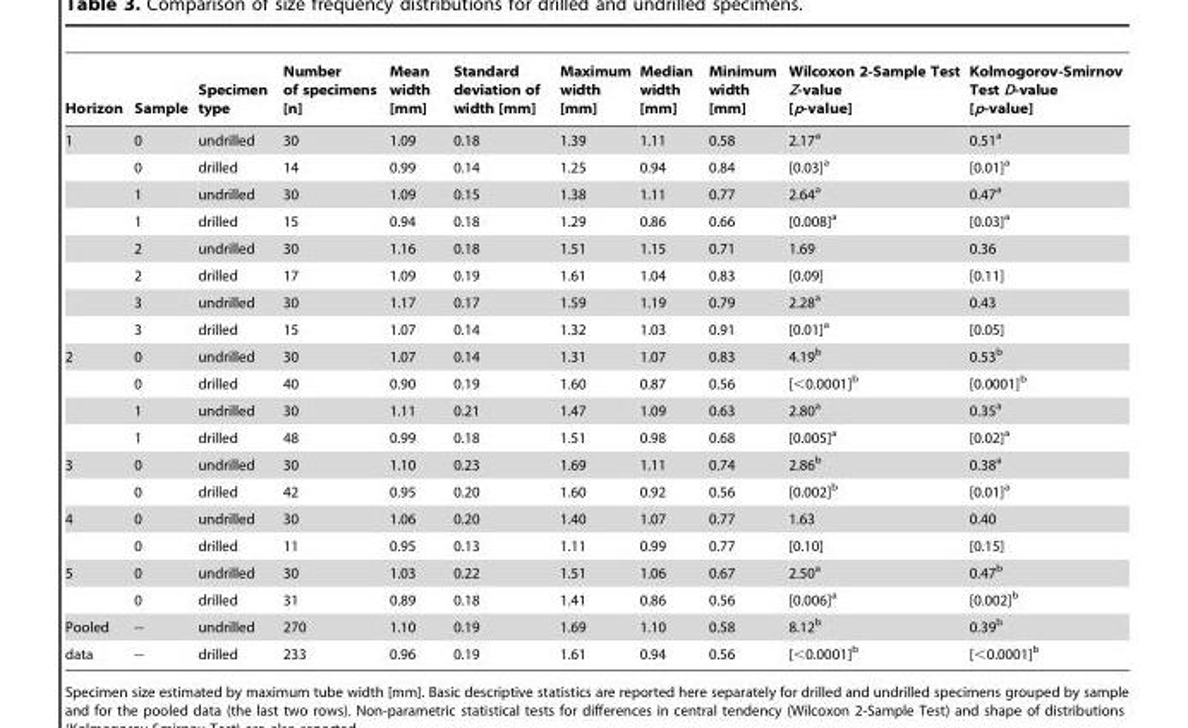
<table><thead><tr><td>Horizon</td><td>Sample</td><td>Specimen type</td><td>Number of specimens [n]</td><td>Mean width [mm]</td><td>Standard deviation of width [mm]</td><td>Maximum width [mm]</td><td>Median width [mm]</td><td>Minimum width [mm]</td><td>Wilcoxon 2-Sample Test Z-value [p-value]</td><td>Kolmogorov-Smirnov Test D-value [p-value]</td></tr></thead><tbody><tr><td rowspan="8">1</td><td>0</td><td>undrilled</td><td>30</td><td>1.09</td><td>0.18</td><td>1.39</td><td>1.11</td><td>0.58</td><td>2.17<sup>a</sup></td><td>0.51<sup>a</sup></td></tr><tr><td>0</td><td>drilled</td><td>14</td><td>0.99</td><td>0.14</td><td>1.25</td><td>0.94</td><td>0.84</td><td>[0.03]<sup>a</sup></td><td>[0.01]<sup>a</sup></td></tr><tr><td>1</td><td>undrilled</td><td>30</td><td>1.09</td><td>0.15</td><td>1.38</td><td>1.11</td><td>0.77</td><td>2.64<sup>a</sup></td><td>0.47<sup>a</sup></td></tr><tr><td>1</td><td>drilled</td><td>15</td><td>0.94</td><td>0.18</td><td>1.29</td><td>0.86</td><td>0.66</td><td>[0.008]<sup>a</sup></td><td>[0.03]<sup>a</sup></td></tr><tr><td>2</td><td>undrilled</td><td>30</td><td>1.16</td><td>0.18</td><td>1.51</td><td>1.15</td><td>0.71</td><td>1.69</td><td>0.36</td></tr><tr><td>2</td><td>drilled</td><td>17</td><td>1.09</td><td>0.19</td><td>1.61</td><td>1.04</td><td>0.83</td><td>[0.09]</td><td>[0.11]</td></tr><tr><td>3</td><td>undrilled</td><td>30</td><td>1.17</td><td>0.17</td><td>1.59</td><td>1.19</td><td>0.79</td><td>2.28<sup>a</sup></td><td>0.43</td></tr><tr><td>3</td><td>drilled</td><td>15</td><td>1.07</td><td>0.14</td><td>1.32</td><td>1.03</td><td>0.91</td><td>[0.01]<sup>a</sup></td><td>[0.05]</td></tr><tr><td rowspan="4">2</td><td>0</td><td>undrilled</td><td>30</td><td>1.07</td><td>0.14</td><td>1.31</td><td>1.07</td><td>0.83</td><td>4.19<sup>b</sup></td><td>0.53<sup>b</sup></td></tr><tr><td>0</td><td>drilled</td><td>40</td><td>0.90</td><td>0.19</td><td>1.60</td><td>0.87</td><td>0.56</td><td>[&lt;0.0001]<sup>b</sup></td><td>[0.0001]<sup>b</sup></td></tr><tr><td>1</td><td>undrilled</td><td>30</td><td>1.11</td><td>0.21</td><td>1.47</td><td>1.09</td><td>0.63</td><td>2.80<sup>a</sup></td><td>0.35<sup>a</sup></td></tr><tr><td>1</td><td>drilled</td><td>48</td><td>0.99</td><td>0.18</td><td>1.51</td><td>0.98</td><td>0.68</td><td>[0.005]<sup>a</sup></td><td>[0.02]<sup>a</sup></td></tr><tr><td rowspan="2">3</td><td>0</td><td>undrilled</td><td>30</td><td>1.10</td><td>0.23</td><td>1.69</td><td>1.11</td><td>0.74</td><td>2.86<sup>b</sup></td><td>0.38<sup>a</sup></td></tr><tr><td>0</td><td>drilled</td><td>42</td><td>0.95</td><td>0.20</td><td>1.60</td><td>0.92</td><td>0.56</td><td>[0.002]<sup>b</sup></td><td>[0.01]<sup>a</sup></td></tr><tr><td rowspan="2">4</td><td>0</td><td>undrilled</td><td>30</td><td>1.06</td><td>0.20</td><td>1.40</td><td>1.07</td><td>0.77</td><td>1.63</td><td>0.40</td></tr><tr><td>0</td><td>drilled</td><td>11</td><td>0.95</td><td>0.13</td><td>1.11</td><td>0.99</td><td>0.77</td><td>[0.10]</td><td>[0.15]</td></tr><tr><td rowspan="2">5</td><td>0</td><td>undrilled</td><td>30</td><td>1.03</td><td>0.22</td><td>1.51</td><td>1.06</td><td>0.67</td><td>2.50<sup>a</sup></td><td>0.47<sup>b</sup></td></tr><tr><td>0</td><td>drilled</td><td>31</td><td>0.89</td><td>0.18</td><td>1.41</td><td>0.86</td><td>0.56</td><td>[0.006]<sup>a</sup></td><td>[0.002]<sup>b</sup></td></tr><tr><td>Pooled</td><td>--</td><td>undrilled</td><td>270</td><td>1.10</td><td>0.19</td><td>1.69</td><td>1.10</td><td>0.58</td><td>8.12<sup>b</sup></td><td>0.39<sup>b</sup></td></tr><tr><td>data</td><td>--</td><td>drilled</td><td>233</td><td>0.96</td><td>0.19</td><td>1.61</td><td>0.94</td><td>0.56</td><td>[&lt;0.0001]<sup>b</sup></td><td>[&lt;0.0001]<sup>b</sup></td></tr></tbody></table>